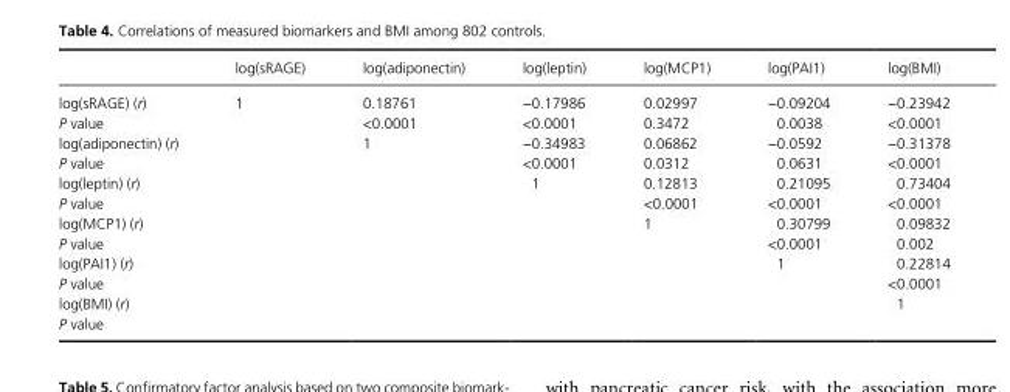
<table><thead><tr><td></td><td>log(sRAGE)</td><td>log(adiponectin)</td><td>log(leptin)</td><td>log(MCP1)</td><td>log(PAI1)</td><td>log(BMI)</td></tr></thead><tbody><tr><td>log(sRAGE) (r)</td><td>1</td><td>0.18761</td><td>−0.17986</td><td>0.02997</td><td>−0.09204</td><td>−0.23942</td></tr><tr><td>P value</td><td></td><td>&lt;0.0001</td><td>&lt;0.0001</td><td>0.3472</td><td>0.0038</td><td>&lt;0.0001</td></tr><tr><td>log(adiponectin) (r)</td><td></td><td>1</td><td>−0.34983</td><td>0.06862</td><td>−0.0592</td><td>−0.31378</td></tr><tr><td>P value</td><td></td><td></td><td>&lt;0.0001</td><td>0.0312</td><td>0.0631</td><td>&lt;0.0001</td></tr><tr><td>log(leptin) (r)</td><td></td><td></td><td>1</td><td>0.12813</td><td>0.21095</td><td>0.73404</td></tr><tr><td>P value</td><td></td><td></td><td></td><td>&lt;0.0001</td><td>&lt;0.0001</td><td>&lt;0.0001</td></tr><tr><td>log(MCP1) (r)</td><td></td><td></td><td></td><td>1</td><td>0.30799</td><td>0.09832</td></tr><tr><td>P value</td><td></td><td></td><td></td><td></td><td>&lt;0.0001</td><td>0.002</td></tr><tr><td>log(PAI1) (r)</td><td></td><td></td><td></td><td></td><td>1</td><td>0.22814</td></tr><tr><td>P value</td><td></td><td></td><td></td><td></td><td></td><td>&lt;0.0001</td></tr><tr><td>log(BMI) (r)</td><td></td><td></td><td></td><td></td><td></td><td>1</td></tr><tr><td>P value</td><td></td><td></td><td></td><td></td><td></td><td></td></tr></tbody></table>